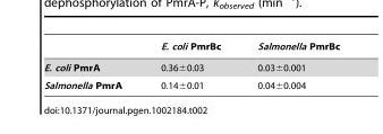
<table><thead><tr><td></td><td>E. coli PmrBc</td><td>Salmonella PmrBc</td></tr></thead><tbody><tr><td>E. coli PmrA</td><td>0.36±0.03</td><td>0.03±0.001</td></tr><tr><td>Salmonella PmrA</td><td>0.14±0.01</td><td>0.04±0.004</td></tr></tbody></table>